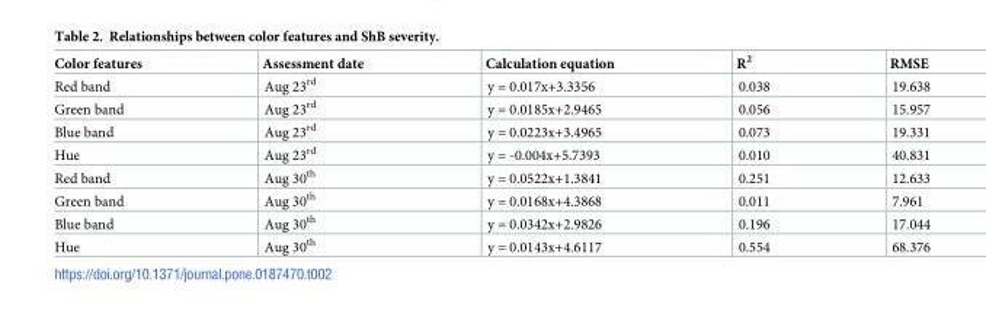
<table><thead><tr><td>Color features</td><td>Assessment date</td><td>Calculation equation</td><td>R<sup>2</sup></td><td>RMSE</td></tr></thead><tbody><tr><td>Red band</td><td>Aug 23<sup>rd</sup></td><td>y = 0.017x+3.3356</td><td>0.038</td><td>19.638</td></tr><tr><td>Green band</td><td>Aug 23<sup>rd</sup></td><td>y = 0.0185x+2.9465</td><td>0.056</td><td>15.957</td></tr><tr><td>Blue band</td><td>Aug 23<sup>rd</sup></td><td>y = 0.0223x+3.4965</td><td>0.073</td><td>19.331</td></tr><tr><td>Hue</td><td>Aug 23<sup>rd</sup></td><td>y = -0.004x+5.7393</td><td>0.010</td><td>40.831</td></tr><tr><td>Red band</td><td>Aug 30<sup>th</sup></td><td>y = 0.0522x+1.3841</td><td>0.251</td><td>12.633</td></tr><tr><td>Green band</td><td>Aug 30<sup>th</sup></td><td>y = 0.0168x+4.3868</td><td>0.011</td><td>7.961</td></tr><tr><td>Blue band</td><td>Aug 30<sup>th</sup></td><td>y = 0.0342x+2.9826</td><td>0.196</td><td>17.044</td></tr><tr><td>Hue</td><td>Aug 30<sup>th</sup></td><td>y = 0.0143x+4.6117</td><td>0.554</td><td>68.376</td></tr></tbody></table>